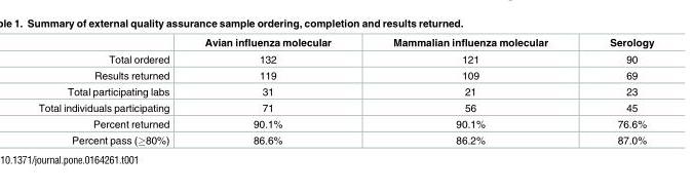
<table><thead><tr><td></td><td>Avian influenza molecular</td><td>Mammalian influenza molecular</td><td>Serology</td></tr></thead><tbody><tr><td>Total ordered</td><td>132</td><td>121</td><td>90</td></tr><tr><td>Results returned</td><td>119</td><td>109</td><td>69</td></tr><tr><td>Total participating labs</td><td>31</td><td>21</td><td>23</td></tr><tr><td>Total individuals participating</td><td>71</td><td>56</td><td>45</td></tr><tr><td>Percent returned</td><td>90.1%</td><td>90.1%</td><td>76.6%</td></tr><tr><td>Percent pass (≥80%)</td><td>86.6%</td><td>86.2%</td><td>87.0%</td></tr></tbody></table>